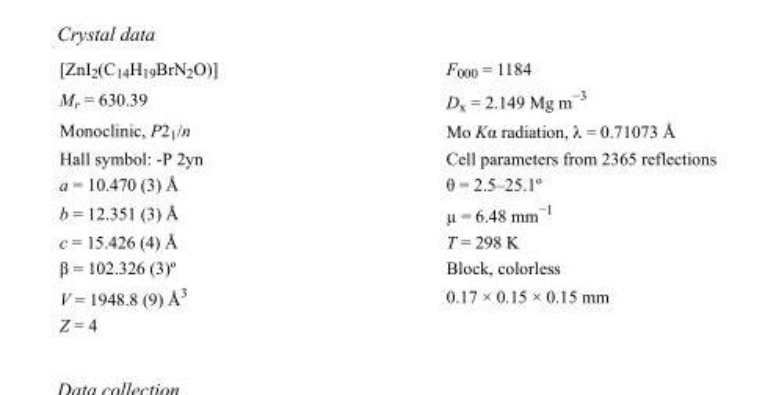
<table><tbody><tr><td>[ZnI<sub>2</sub>(C<sub>14</sub>H<sub>19</sub>BrN<sub>2</sub>O)]</td><td>F000 = 1184</td></tr><tr><td>M<sub>r</sub> = 630.39</td><td>D<sub>x</sub> = 2.149 Mg m<sup>−3</sup></td></tr><tr><td>Monoclinic, P2<sub>1</sub>/n</td><td>Mo Kα radiation, λ = 0.71073 Å</td></tr><tr><td>Hall symbol: -P 2yn</td><td>Cell parameters from 2365 reflections</td></tr><tr><td>a = 10.470 (3) Å</td><td>θ = 2.5–25.1º</td></tr><tr><td>b = 12.351 (3) Å</td><td>µ = 6.48 mm<sup>−1</sup></td></tr><tr><td>c = 15.426 (4) Å</td><td>T = 298 K</td></tr><tr><td>β = 102.326 (3)º</td><td>Block, colorless</td></tr><tr><td>V = 1948.8 (9) Å<sup>3</sup></td><td>0.17 × 0.15 × 0.15 mm</td></tr><tr><td>Z = 4</td><td></td></tr></tbody></table>